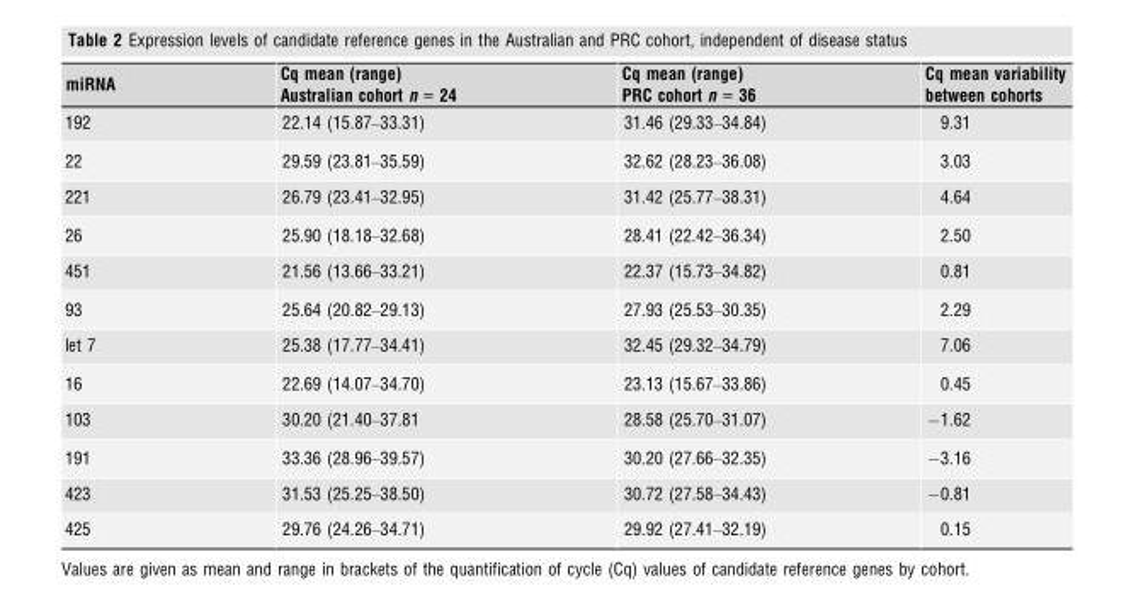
<table><thead><tr><td>miRNA</td><td>Cq mean (range) Australian cohort n = 24</td><td>Cq mean (range) PRC cohort n = 36</td><td>Cq mean variability between cohorts</td></tr></thead><tbody><tr><td>192</td><td>22.14 (15.87–33.31)</td><td>31.46 (29.33–34.84)</td><td>9.31</td></tr><tr><td>22</td><td>29.59 (23.81–35.59)</td><td>32.62 (28.23–36.08)</td><td>3.03</td></tr><tr><td>221</td><td>26.79 (23.41–32.95)</td><td>31.42 (25.77–38.31)</td><td>4.64</td></tr><tr><td>26</td><td>25.90 (18.18–32.68)</td><td>28.41 (22.42–36.34)</td><td>2.50</td></tr><tr><td>451</td><td>21.56 (13.66–33.21)</td><td>22.37 (15.73–34.82)</td><td>0.81</td></tr><tr><td>93</td><td>25.64 (20.82–29.13)</td><td>27.93 (25.53–30.35)</td><td>2.29</td></tr><tr><td>let 7</td><td>25.38 (17.77–34.41)</td><td>32.45 (29.32–34.79)</td><td>7.06</td></tr><tr><td>16</td><td>22.69 (14.07–34.70)</td><td>23.13 (15.67–33.86)</td><td>0.45</td></tr><tr><td>103</td><td>30.20 (21.40–37.81</td><td>28.58 (25.70–31.07)</td><td>−1.62</td></tr><tr><td>191</td><td>33.36 (28.96–39.57)</td><td>30.20 (27.66–32.35)</td><td>−3.16</td></tr><tr><td>423</td><td>31.53 (25.25–38.50)</td><td>30.72 (27.58–34.43)</td><td>−0.81</td></tr><tr><td>425</td><td>29.76 (24.26–34.71)</td><td>29.92 (27.41–32.19)</td><td>0.15</td></tr></tbody></table>